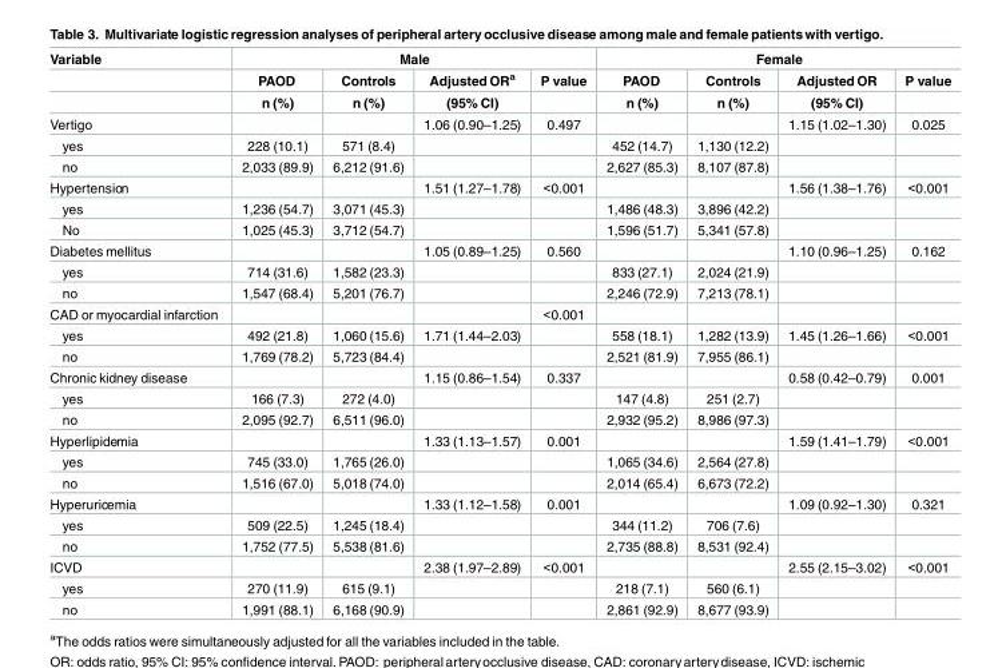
<table><thead><tr><td rowspan="3">Variable</td><td colspan="4">Male</td><td colspan="4">Female</td></tr><tr><td rowspan="2">PAOD n (%)</td><td rowspan="2">Controls n (%)</td><td rowspan="2">Adjusted OR<sup>a</sup> (95% CI)</td><td rowspan="2">P value</td><td rowspan="2">PAOD n (%)</td><td rowspan="2">Controls n (%)</td><td rowspan="2">Adjusted OR (95% CI)</td><td rowspan="2">P value</td></tr><tr></tr></thead><tbody><tr><td>Vertigo</td><td></td><td></td><td>1.06 (0.90–1.25)</td><td>0.497</td><td></td><td></td><td>1.15 (1.02–1.30)</td><td>0.025</td></tr><tr><td>yes</td><td>228 (10.1)</td><td>571 (8.4)</td><td></td><td></td><td>452 (14.7)</td><td>1,130 (12.2)</td><td></td><td></td></tr><tr><td>no</td><td>2,033 (89.9)</td><td>6,212 (91.6)</td><td></td><td></td><td>2,627 (85.3)</td><td>8,107 (87.8)</td><td></td><td></td></tr><tr><td>Hypertension</td><td></td><td></td><td>1.51 (1.27–1.78)</td><td>&lt;0.001</td><td></td><td></td><td>1.56 (1.38–1.76)</td><td>&lt;0.001</td></tr><tr><td>yes</td><td>1,236 (54.7)</td><td>3,071 (45.3)</td><td></td><td></td><td>1,486 (48.3)</td><td>3,896 (42.2)</td><td></td><td></td></tr><tr><td>No</td><td>1,025 (45.3)</td><td>3,712 (54.7)</td><td></td><td></td><td>1,596 (51.7)</td><td>5,341 (57.8)</td><td></td><td></td></tr><tr><td>Diabetes mellitus</td><td></td><td></td><td>1.05 (0.89–1.25)</td><td>0.560</td><td></td><td></td><td>1.10 (0.96–1.25)</td><td>0.162</td></tr><tr><td>yes</td><td>714 (31.6)</td><td>1,582 (23.3)</td><td></td><td></td><td>833 (27.1)</td><td>2,024 (21.9)</td><td></td><td></td></tr><tr><td>no</td><td>1,547 (68.4)</td><td>5,201 (76.7)</td><td></td><td></td><td>2,246 (72.9)</td><td>7,213 (78.1)</td><td></td><td></td></tr><tr><td>CAD or myocardial infarction</td><td></td><td></td><td></td><td>&lt;0.001</td><td></td><td></td><td></td><td></td></tr><tr><td>yes</td><td>492 (21.8)</td><td>1,060 (15.6)</td><td>1.71 (1.44–2.03)</td><td></td><td>558 (18.1)</td><td>1,282 (13.9)</td><td>1.45 (1.26–1.66)</td><td>&lt;0.001</td></tr><tr><td>no</td><td>1,769 (78.2)</td><td>5,723 (84.4)</td><td></td><td></td><td>2,521 (81.9)</td><td>7,955 (86.1)</td><td></td><td></td></tr><tr><td>Chronic kidney disease</td><td></td><td></td><td>1.15 (0.86–1.54)</td><td>0.337</td><td></td><td></td><td>0.58 (0.42–0.79)</td><td>0.001</td></tr><tr><td>yes</td><td>166 (7.3)</td><td>272 (4.0)</td><td></td><td></td><td>147 (4.8)</td><td>251 (2.7)</td><td></td><td></td></tr><tr><td>no</td><td>2,095 (92.7)</td><td>6,511 (96.0)</td><td></td><td></td><td>2,932 (95.2)</td><td>8,986 (97.3)</td><td></td><td></td></tr><tr><td>Hyperlipidemia</td><td></td><td></td><td>1.33 (1.13–1.57)</td><td>0.001</td><td></td><td></td><td>1.59 (1.41–1.79)</td><td>&lt;0.001</td></tr><tr><td>yes</td><td>745 (33.0)</td><td>1,765 (26.0)</td><td></td><td></td><td>1,065 (34.6)</td><td>2,564 (27.8)</td><td></td><td></td></tr><tr><td>no</td><td>1,516 (67.0)</td><td>5,018 (74.0)</td><td></td><td></td><td>2,014 (65.4)</td><td>6,673 (72.2)</td><td></td><td></td></tr><tr><td>Hyperuricemia</td><td></td><td></td><td>1.33 (1.12–1.58)</td><td>0.001</td><td></td><td></td><td>1.09 (0.92–1.30)</td><td>0.321</td></tr><tr><td>yes</td><td>509 (22.5)</td><td>1,245 (18.4)</td><td></td><td></td><td>344 (11.2)</td><td>706 (7.6)</td><td></td><td></td></tr><tr><td>no</td><td>1,752 (77.5)</td><td>5,538 (81.6)</td><td></td><td></td><td>2,735 (88.8)</td><td>8,531 (92.4)</td><td></td><td></td></tr><tr><td>ICVD</td><td></td><td></td><td>2.38 (1.97–2.89)</td><td>&lt;0.001</td><td></td><td></td><td>2.55 (2.15–3.02)</td><td>&lt;0.001</td></tr><tr><td>yes</td><td>270 (11.9)</td><td>615 (9.1)</td><td></td><td></td><td>218 (7.1)</td><td>560 (6.1)</td><td></td><td></td></tr><tr><td>no</td><td>1,991 (88.1)</td><td>6,168 (90.9)</td><td></td><td></td><td>2,861 (92.9)</td><td>8,677 (93.9)</td><td></td><td></td></tr></tbody></table>